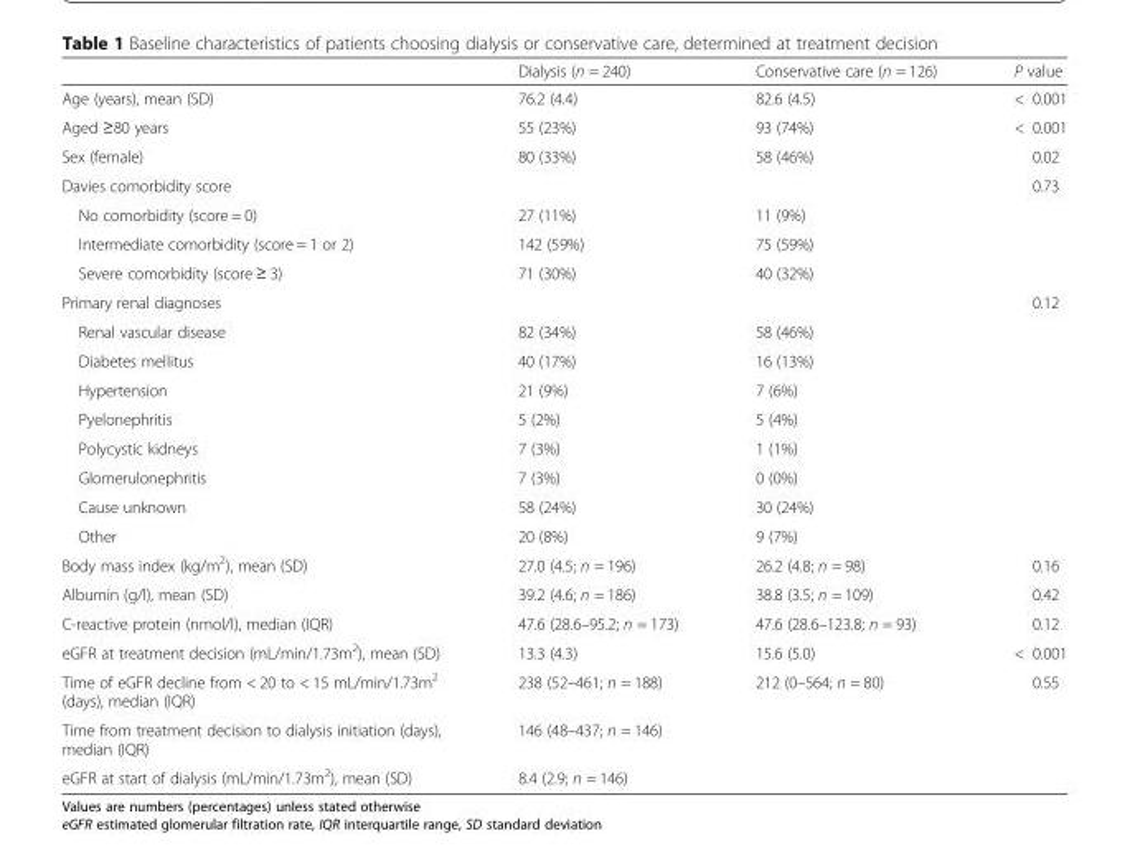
<table><thead><tr><td></td><td>Dialysis (n = 240)</td><td>Conservative care (n = 126)</td><td>P value</td></tr></thead><tbody><tr><td>Age (years), mean (SD)</td><td>76.2 (4.4)</td><td>82.6 (4.5)</td><td>&lt; 0.001</td></tr><tr><td>Aged ≥80 years</td><td>55 (23%)</td><td>93 (74%)</td><td>&lt; 0.001</td></tr><tr><td>Sex (female)</td><td>80 (33%)</td><td>58 (46%)</td><td>0.02</td></tr><tr><td colspan="3">Davies comorbidity score</td><td>0.73</td></tr><tr><td>No comorbidity (score = 0)</td><td>27 (11%)</td><td>11 (9%)</td><td></td></tr><tr><td>Intermediate comorbidity (score = 1 or 2)</td><td>142 (59%)</td><td>75 (59%)</td><td></td></tr><tr><td>Severe comorbidity (score ≥ 3)</td><td>71 (30%)</td><td>40 (32%)</td><td></td></tr><tr><td colspan="3">Primary renal diagnoses</td><td>0.12</td></tr><tr><td>Renal vascular disease</td><td>82 (34%)</td><td>58 (46%)</td><td></td></tr><tr><td>Diabetes mellitus</td><td>40 (17%)</td><td>16 (13%)</td><td></td></tr><tr><td>Hypertension</td><td>21 (9%)</td><td>7 (6%)</td><td></td></tr><tr><td>Pyelonephritis</td><td>5 (2%)</td><td>5 (4%)</td><td></td></tr><tr><td>Polycystic kidneys</td><td>7 (3%)</td><td>1 (1%)</td><td></td></tr><tr><td>Glomerulonephritis</td><td>7 (3%)</td><td>0 (0%)</td><td></td></tr><tr><td>Cause unknown</td><td>58 (24%)</td><td>30 (24%)</td><td></td></tr><tr><td>Other</td><td>20 (8%)</td><td>9 (7%)</td><td></td></tr><tr><td>Body mass index (kg/m<sup>2</sup>), mean (SD)</td><td>27.0 (4.5; n = 196)</td><td>26.2 (4.8; n = 98)</td><td>0.16</td></tr><tr><td>Albumin (g/l), mean (SD)</td><td>39.2 (4.6; n = 186)</td><td>38.8 (3.5; n = 109)</td><td>0.42</td></tr><tr><td>C-reactive protein (nmol/l), median (IQR)</td><td>47.6 (28.6–95.2; n = 173)</td><td>47.6 (28.6–123.8; n = 93)</td><td>0.12</td></tr><tr><td>eGFR at treatment decision (mL/min/1.73m<sup>2</sup>), mean (SD)</td><td>13.3 (4.3)</td><td>15.6 (5.0)</td><td>&lt; 0.001</td></tr><tr><td>Time of eGFR decline from &lt; 20 to &lt; 15 mL/min/1.73m<sup>2</sup> (days), median (IQR)</td><td>238 (52–461; n = 188)</td><td>212 (0–564; n = 80)</td><td>0.55</td></tr><tr><td>Time from treatment decision to dialysis initiation (days), median (IQR)</td><td>146 (48–437; n = 146)</td><td></td><td></td></tr><tr><td>eGFR at start of dialysis (mL/min/1.73m<sup>2</sup>), mean (SD)</td><td>8.4 (2.9; n = 146)</td><td></td><td></td></tr></tbody></table>